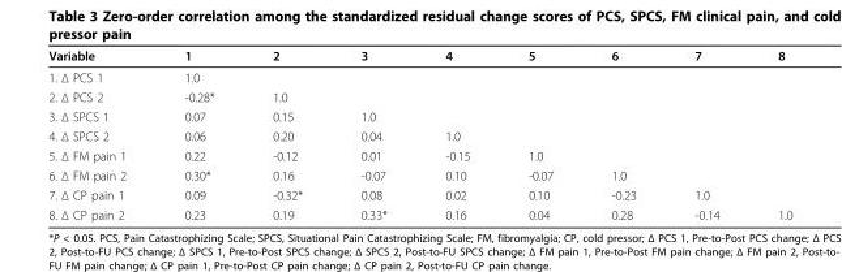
<table><thead><tr><td>Variable</td><td>1</td><td>2</td><td>3</td><td>4</td><td>5</td><td>6</td><td>7</td><td>8</td></tr></thead><tbody><tr><td>1. Δ PCS 1</td><td>1.0</td><td></td><td></td><td></td><td></td><td></td><td></td><td></td></tr><tr><td>2. Δ PCS 2</td><td>-0.28*</td><td>1.0</td><td></td><td></td><td></td><td></td><td></td><td></td></tr><tr><td>3. Δ SPCS 1</td><td>0.07</td><td>0.15</td><td>1.0</td><td></td><td></td><td></td><td></td><td></td></tr><tr><td>4. Δ SPCS 2</td><td>0.06</td><td>0.20</td><td>0.04</td><td>1.0</td><td></td><td></td><td></td><td></td></tr><tr><td>5. Δ FM pain 1</td><td>0.22</td><td>-0.12</td><td>0.01</td><td>-0.15</td><td>1.0</td><td></td><td></td><td></td></tr><tr><td>6. Δ FM pain 2</td><td>0.30*</td><td>0.16</td><td>-0.07</td><td>0.10</td><td>-0.07</td><td>1.0</td><td></td><td></td></tr><tr><td>7. Δ CP pain 1</td><td>0.09</td><td>-0.32*</td><td>0.08</td><td>0.02</td><td>0.10</td><td>-0.23</td><td>1.0</td><td></td></tr><tr><td>8. Δ CP pain 2</td><td>0.23</td><td>0.19</td><td>0.33*</td><td>0.16</td><td>0.04</td><td>0.28</td><td>-0.14</td><td>1.0</td></tr></tbody></table>